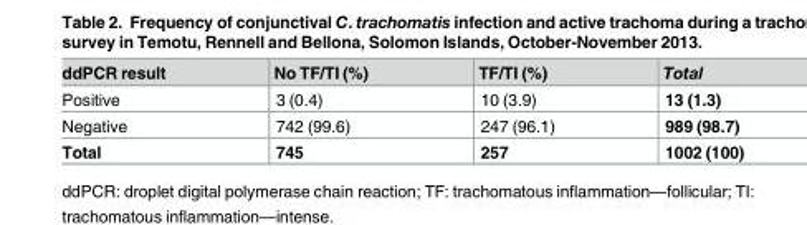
<table><thead><tr><td>ddPCR result</td><td>No TF/TI (%)</td><td>TF/TI (%)</td><td>Total</td></tr></thead><tbody><tr><td>Positive</td><td>3 (0.4)</td><td>10 (3.9)</td><td>13 (1.3)</td></tr><tr><td>Negative</td><td>742 (99.6)</td><td>247 (96.1)</td><td>989 (98.7)</td></tr><tr><td>Total</td><td>745</td><td>257</td><td>1002 (100)</td></tr></tbody></table>